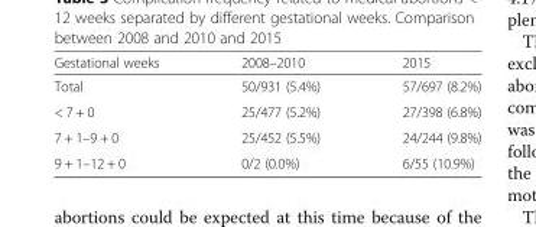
<table><thead><tr><td>Gestational weeks</td><td>2008–2010</td><td>2015</td></tr></thead><tbody><tr><td>Total</td><td>50/931 (5.4%)</td><td>57/697 (8.2%)</td></tr><tr><td>&lt; 7 + 0</td><td>25/477 (5.2%)</td><td>27/398 (6.8%)</td></tr><tr><td>7 + 1–9 + 0</td><td>25/452 (5.5%)</td><td>24/244 (9.8%)</td></tr><tr><td>9 + 1–12 + 0</td><td>0/2 (0.0%)</td><td>6/55 (10.9%)</td></tr></tbody></table>